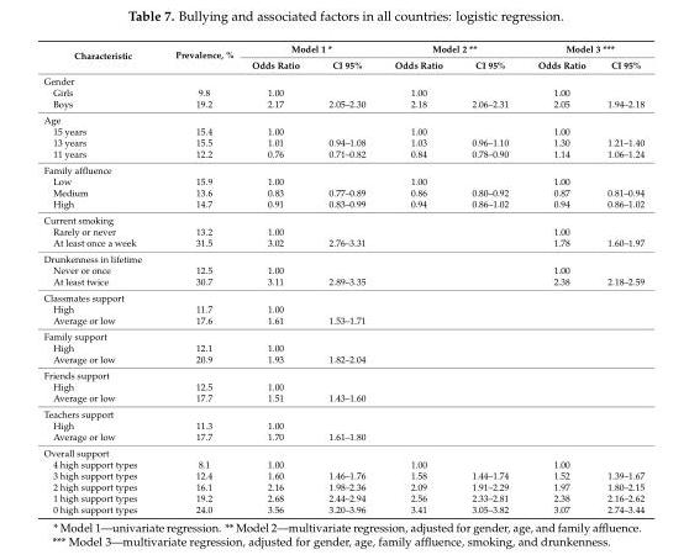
<table><thead><tr><td rowspan="2">Characteristic</td><td rowspan="2">Prevalence, %</td><td colspan="2">Model 1 *</td><td colspan="2">Model 2 **</td><td colspan="2">Model 3 ***</td></tr><tr><td>Odds Ratio</td><td>CI 95%</td><td>Odds Ratio</td><td>CI 95%</td><td>Odds Ratio</td><td>CI 95%</td></tr></thead><tbody><tr><td colspan="8">Gender</td></tr><tr><td>Girls</td><td>9.8</td><td>1.00</td><td></td><td>1.00</td><td></td><td>1.00</td><td></td></tr><tr><td>Boys</td><td>19.2</td><td>2.17</td><td>2.05–2.30</td><td>2.18</td><td>2.06–2.31</td><td>2.05</td><td>1.94–2.18</td></tr><tr><td colspan="8">Age</td></tr><tr><td>15 years</td><td>15.4</td><td>1.00</td><td></td><td>1.00</td><td></td><td>1.00</td><td></td></tr><tr><td>13 years</td><td>15.5</td><td>1.01</td><td>0.94–1.08</td><td>1.03</td><td>0.96–1.10</td><td>1.30</td><td>1.21–1.40</td></tr><tr><td>11 years</td><td>12.2</td><td>0.76</td><td>0.71–0.82</td><td>0.84</td><td>0.78–0.90</td><td>1.14</td><td>1.06–1.24</td></tr><tr><td colspan="8">Family affluence</td></tr><tr><td>Low</td><td>15.9</td><td>1.00</td><td></td><td>1.00</td><td></td><td>1.00</td><td></td></tr><tr><td>Medium</td><td>13.6</td><td>0.83</td><td>0.77–0.89</td><td>0.86</td><td>0.80–0.92</td><td>0.87</td><td>0.81–0.94</td></tr><tr><td>High</td><td>14.7</td><td>0.91</td><td>0.83–0.99</td><td>0.94</td><td>0.86–1.02</td><td>0.94</td><td>0.86–1.02</td></tr><tr><td colspan="8">Current smoking</td></tr><tr><td>Rarely or never</td><td>13.2</td><td>1.00</td><td></td><td></td><td></td><td>1.00</td><td></td></tr><tr><td>At least once a week</td><td>31.5</td><td>3.02</td><td>2.76–3.31</td><td></td><td></td><td>1.78</td><td>1.60–1.97</td></tr><tr><td colspan="8">Drunkenness in lifetime</td></tr><tr><td>Never or once</td><td>12.5</td><td>1.00</td><td></td><td></td><td></td><td>1.00</td><td></td></tr><tr><td>At least twice</td><td>30.7</td><td>3.11</td><td>2.89–3.35</td><td></td><td></td><td>2.38</td><td>2.18–2.59</td></tr><tr><td colspan="8">Classmates support</td></tr><tr><td>High</td><td>11.7</td><td>1.00</td><td></td><td></td><td></td><td></td><td></td></tr><tr><td>Average or low</td><td>17.6</td><td>1.61</td><td>1.53–1.71</td><td></td><td></td><td></td><td></td></tr><tr><td colspan="8">Family support</td></tr><tr><td>High</td><td>12.1</td><td>1.00</td><td></td><td></td><td></td><td></td><td></td></tr><tr><td>Average or low</td><td>20.9</td><td>1.93</td><td>1.82–2.04</td><td></td><td></td><td></td><td></td></tr><tr><td colspan="8">Friends support</td></tr><tr><td>High</td><td>12.5</td><td>1.00</td><td></td><td></td><td></td><td></td><td></td></tr><tr><td>Average or low</td><td>17.7</td><td>1.51</td><td>1.43–1.60</td><td></td><td></td><td></td><td></td></tr><tr><td colspan="8">Teachers support</td></tr><tr><td>High</td><td>11.3</td><td>1.00</td><td></td><td></td><td></td><td></td><td></td></tr><tr><td>Average or low</td><td>17.7</td><td>1.70</td><td>1.61–1.80</td><td></td><td></td><td></td><td></td></tr><tr><td colspan="8">Overall support</td></tr><tr><td>4 high support types</td><td>8.1</td><td>1.00</td><td></td><td>1.00</td><td></td><td>1.00</td><td></td></tr><tr><td>3 high support types</td><td>12.4</td><td>1.60</td><td>1.46–1.76</td><td>1.58</td><td>1.44–1.74</td><td>1.52</td><td>1.39–1.67</td></tr><tr><td>2 high support types</td><td>16.1</td><td>2.16</td><td>1.98–2.36</td><td>2.09</td><td>1.91–2.29</td><td>1.97</td><td>1.80–2.15</td></tr><tr><td>1 high support types</td><td>19.2</td><td>2.68</td><td>2.44–2.94</td><td>2.56</td><td>2.33–2.81</td><td>2.38</td><td>2.16–2.62</td></tr><tr><td>0 high support types</td><td>24.0</td><td>3.56</td><td>3.20–3.96</td><td>3.41</td><td>3.05–3.82</td><td>3.07</td><td>2.74–3.44</td></tr></tbody></table>